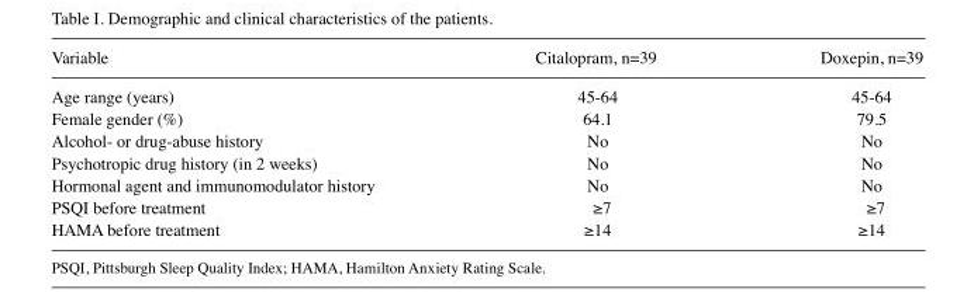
<table><thead><tr><td>Variable</td><td>Citalopram, n=39</td><td>Doxepin, n=39</td></tr></thead><tbody><tr><td>Age range (years)</td><td>45-64</td><td>45-64</td></tr><tr><td>Female gender (%)</td><td>64.1</td><td>79.5</td></tr><tr><td>Alcohol- or drug-abuse history</td><td>No</td><td>No</td></tr><tr><td>Psychotropic drug history (in 2 weeks)</td><td>No</td><td>No</td></tr><tr><td>Hormonal agent and immunomodulator history</td><td>No</td><td>No</td></tr><tr><td>PSQI before treatment</td><td>≥7</td><td>≥7</td></tr><tr><td>HAMA before treatment</td><td>≥14</td><td>≥14</td></tr></tbody></table>